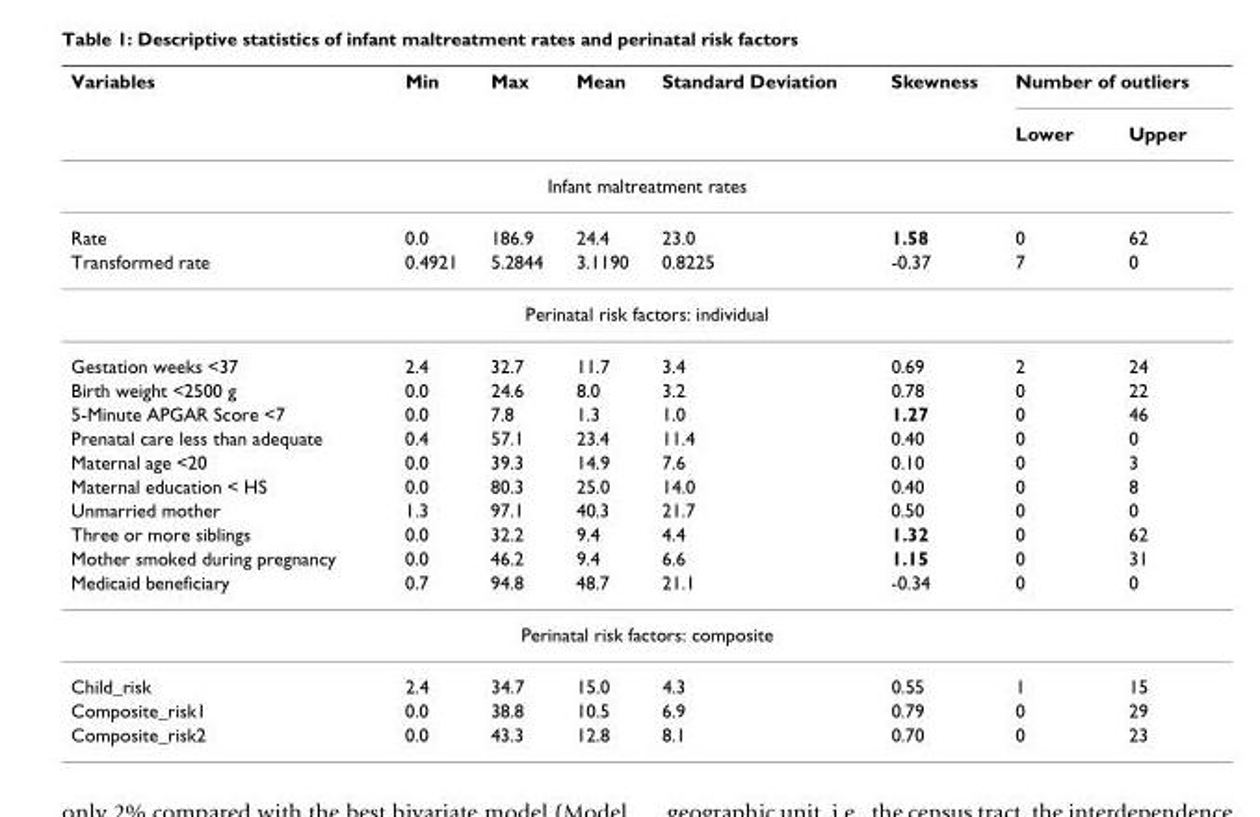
<table><thead><tr><td rowspan="2">Variables</td><td rowspan="2">Min</td><td rowspan="2">Max</td><td rowspan="2">Mean</td><td rowspan="2">Standard Deviation</td><td rowspan="2">Skewness</td><td colspan="2">Number of outliers</td></tr><tr><td>Lower</td><td>Upper</td></tr></thead><tbody><tr><td colspan="8">Infant maltreatment rates</td></tr><tr><td>Rate</td><td>0.0</td><td>186.9</td><td>24.4</td><td>23.0</td><td>1.58</td><td>0</td><td>62</td></tr><tr><td>Transformed rate</td><td>0.4921</td><td>5.2844</td><td>3.1190</td><td>0.8225</td><td>-0.37</td><td>7</td><td>0</td></tr><tr><td colspan="8">Perinatal risk factors: individual</td></tr><tr><td>Gestation weeks &lt;37</td><td>2.4</td><td>32.7</td><td>11.7</td><td>3.4</td><td>0.69</td><td>2</td><td>24</td></tr><tr><td>Birth weight &lt;2500 g</td><td>0.0</td><td>24.6</td><td>8.0</td><td>3.2</td><td>0.78</td><td>0</td><td>22</td></tr><tr><td>5-Minute APGAR Score &lt;7</td><td>0.0</td><td>7.8</td><td>1.3</td><td>1.0</td><td>1.27</td><td>0</td><td>46</td></tr><tr><td>Prenatal care less than adequate</td><td>0.4</td><td>57.1</td><td>23.4</td><td>11.4</td><td>0.40</td><td>0</td><td>0</td></tr><tr><td>Maternal age &lt;20</td><td>0.0</td><td>39.3</td><td>14.9</td><td>7.6</td><td>0.10</td><td>0</td><td>3</td></tr><tr><td>Maternal education &lt; HS</td><td>0.0</td><td>80.3</td><td>25.0</td><td>14.0</td><td>0.40</td><td>0</td><td>8</td></tr><tr><td>Unmarried mother</td><td>1.3</td><td>97.1</td><td>40.3</td><td>21.7</td><td>0.50</td><td>0</td><td>0</td></tr><tr><td>Three or more siblings</td><td>0.0</td><td>32.2</td><td>9.4</td><td>4.4</td><td>1.32</td><td>0</td><td>62</td></tr><tr><td>Mother smoked during pregnancy</td><td>0.0</td><td>46.2</td><td>9.4</td><td>6.6</td><td>1.15</td><td>0</td><td>31</td></tr><tr><td>Medicaid beneficiary</td><td>0.7</td><td>94.8</td><td>48.7</td><td>21.1</td><td>-0.34</td><td>0</td><td>0</td></tr><tr><td colspan="8">Perinatal risk factors: composite</td></tr><tr><td>Child_risk</td><td>2.4</td><td>34.7</td><td>15.0</td><td>4.3</td><td>0.55</td><td>1</td><td>15</td></tr><tr><td>Composite_risk1</td><td>0.0</td><td>38.8</td><td>10.5</td><td>6.9</td><td>0.79</td><td>0</td><td>29</td></tr><tr><td>Composite_risk2</td><td>0.0</td><td>43.3</td><td>12.8</td><td>8.1</td><td>0.70</td><td>0</td><td>23</td></tr></tbody></table>